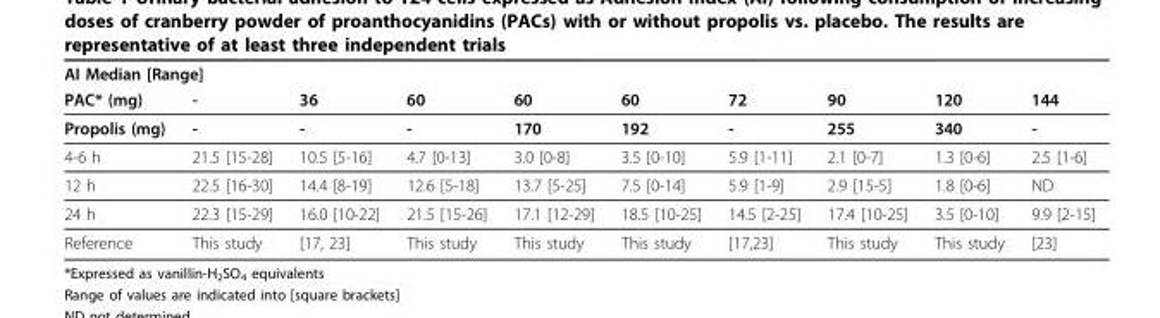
<table><thead><tr><td colspan="10">AI Median [Range]</td></tr><tr><td>PAC* (mg)</td><td>-</td><td>36</td><td>60</td><td>60</td><td>60</td><td>72</td><td>90</td><td>120</td><td>144</td></tr></thead><tbody><tr><td>Propolis (mg)</td><td>-</td><td>-</td><td>-</td><td>170</td><td>192</td><td>-</td><td>255</td><td>340</td><td>-</td></tr><tr><td>4-6 h</td><td>21.5 [15-28]</td><td>10.5 [5-16]</td><td>4.7 [0-13]</td><td>3.0 [0-8]</td><td>3.5 [0-10]</td><td>5.9 [1-11]</td><td>2.1 [0-7]</td><td>1.3 [0-6]</td><td>2.5 [1-6]</td></tr><tr><td>12 h</td><td>22.5 [16-30]</td><td>14.4 [8-19]</td><td>12.6 [5-18]</td><td>13.7 [5-25]</td><td>7.5 [0-14]</td><td>5.9 [1-9]</td><td>2.9 [15-5]</td><td>1.8 [0-6]</td><td>ND</td></tr><tr><td>24 h</td><td>22.3 [15-29]</td><td>16.0 [10-22]</td><td>21.5 [15-26]</td><td>17.1 [12-29]</td><td>18.5 [10-25]</td><td>14.5 [2-25]</td><td>17.4 [10-25]</td><td>3.5 [0-10]</td><td>9.9 [2-15]</td></tr><tr><td>Reference</td><td>This study</td><td>[17, 23]</td><td>This study</td><td>This study</td><td>This study</td><td>[17,23]</td><td>This study</td><td>This study</td><td>[23]</td></tr></tbody></table>